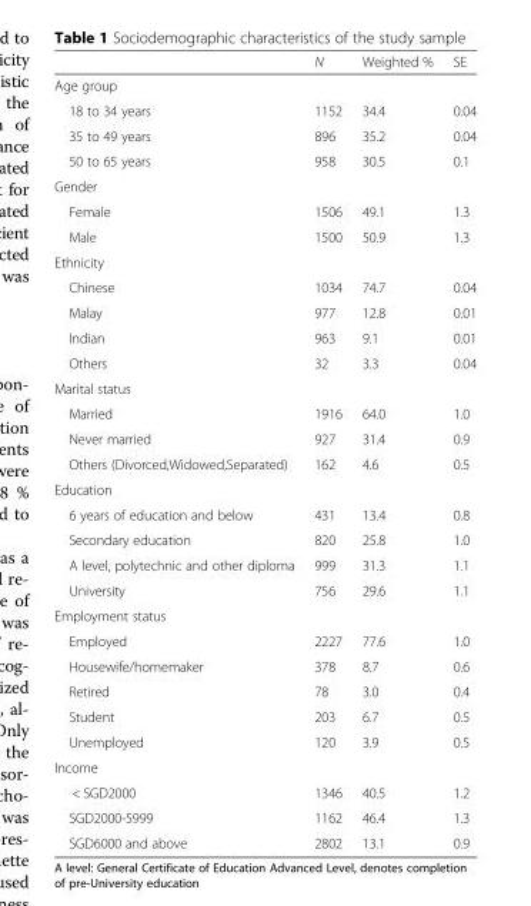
<table><thead><tr><td></td><td>N</td><td>Weighted %</td><td>SE</td></tr></thead><tbody><tr><td colspan="4">Age group</td></tr><tr><td>18 to 34 years</td><td>1152</td><td>34.4</td><td>0.04</td></tr><tr><td>35 to 49 years</td><td>896</td><td>35.2</td><td>0.04</td></tr><tr><td>50 to 65 years</td><td>958</td><td>30.5</td><td>0.1</td></tr><tr><td colspan="4">Gender</td></tr><tr><td>Female</td><td>1506</td><td>49.1</td><td>1.3</td></tr><tr><td>Male</td><td>1500</td><td>50.9</td><td>1.3</td></tr><tr><td colspan="4">Ethnicity</td></tr><tr><td>Chinese</td><td>1034</td><td>74.7</td><td>0.04</td></tr><tr><td>Malay</td><td>977</td><td>12.8</td><td>0.01</td></tr><tr><td>Indian</td><td>963</td><td>9.1</td><td>0.01</td></tr><tr><td>Others</td><td>32</td><td>3.3</td><td>0.04</td></tr><tr><td colspan="4">Marital status</td></tr><tr><td>Married</td><td>1916</td><td>64.0</td><td>1.0</td></tr><tr><td>Never married</td><td>927</td><td>31.4</td><td>0.9</td></tr><tr><td>Others (Divorced,Widowed,Separated)</td><td>162</td><td>4.6</td><td>0.5</td></tr><tr><td colspan="4">Education</td></tr><tr><td>6 years of education and below</td><td>431</td><td>13.4</td><td>0.8</td></tr><tr><td>Secondary education</td><td>820</td><td>25.8</td><td>1.0</td></tr><tr><td>A level, polytechnic and other diploma</td><td>999</td><td>31.3</td><td>1.1</td></tr><tr><td>University</td><td>756</td><td>29.6</td><td>1.1</td></tr><tr><td colspan="4">Employment status</td></tr><tr><td>Employed</td><td>2227</td><td>77.6</td><td>1.0</td></tr><tr><td>Housewife/homemaker</td><td>378</td><td>8.7</td><td>0.6</td></tr><tr><td>Retired</td><td>78</td><td>3.0</td><td>0.4</td></tr><tr><td>Student</td><td>203</td><td>6.7</td><td>0.5</td></tr><tr><td>Unemployed</td><td>120</td><td>3.9</td><td>0.5</td></tr><tr><td colspan="4">Income</td></tr><tr><td>&lt; SGD2000</td><td>1346</td><td>40.5</td><td>1.2</td></tr><tr><td>SGD2000-5999</td><td>1162</td><td>46.4</td><td>1.3</td></tr><tr><td>SGD6000 and above</td><td>2802</td><td>13.1</td><td>0.9</td></tr></tbody></table>